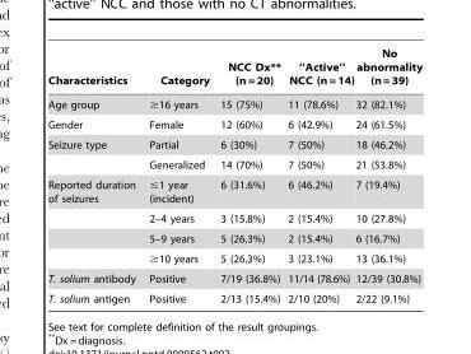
<table><thead><tr><td>Characteristics</td><td>Category</td><td>NCC Dx** (n = 20)</td><td>‘‘Active’’ NCC (n = 14)</td><td>No abnormality (n = 39)</td></tr></thead><tbody><tr><td>Age group</td><td>≥16 years</td><td>15 (75%)</td><td>11 (78.6%)</td><td>32 (82.1%)</td></tr><tr><td>Gender</td><td>Female</td><td>12 (60%)</td><td>6 (42.9%)</td><td>24 (61.5%)</td></tr><tr><td rowspan="2">Seizure type</td><td>Partial</td><td>6 (30%)</td><td>7 (50%)</td><td>18 (46.2%)</td></tr><tr><td>Generalized</td><td>14 (70%)</td><td>7 (50%)</td><td>21 (53.8%)</td></tr><tr><td rowspan="4">Reported duration of seizures</td><td>≤1 year (incident)</td><td>6 (31.6%)</td><td>6 (46.2%)</td><td>7 (19.4%)</td></tr><tr><td>2–4 years</td><td>3 (15.8%)</td><td>2 (15.4%)</td><td>10 (27.8%)</td></tr><tr><td>5–9 years</td><td>5 (26.3%)</td><td>2 (15.4%)</td><td>6 (16.7%)</td></tr><tr><td>≥10 years</td><td>5 (26.3%)</td><td>3 (23.1%)</td><td>13 (36.1%)</td></tr><tr><td>T. solium antibody</td><td>Positive</td><td>7/19 (36.8%)</td><td>11/14 (78.6%)</td><td>12/39 (30.8%)</td></tr><tr><td>T. solium antigen</td><td>Positive</td><td>2/13 (15.4%)</td><td>2/10 (20%)</td><td>2/22 (9.1%)</td></tr></tbody></table>